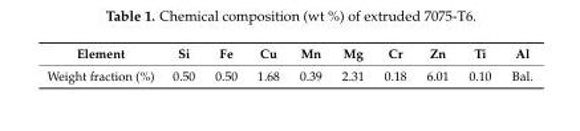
<table><thead><tr><td>Element</td><td>Si</td><td>Fe</td><td>Cu</td><td>Mn</td><td>Mg</td><td>Cr</td><td>Zn</td><td>Ti</td><td>Al</td></tr></thead><tbody><tr><td>Weight fraction (%)</td><td>0.50</td><td>0.50</td><td>1.68</td><td>0.39</td><td>2.31</td><td>0.18</td><td>6.01</td><td>0.10</td><td>Bal.</td></tr></tbody></table>